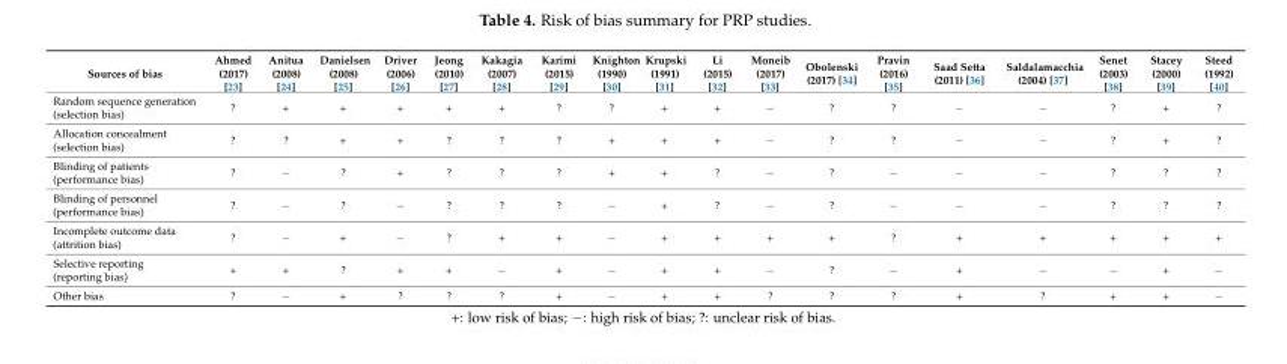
<table><thead><tr><td>Sources of bias</td><td>Ahmed (2017) [23]</td><td>Anitua (2008) [24]</td><td>Danielsen (2008) [25]</td><td>Driver (2006) [26]</td><td>Jeong (2010) [27]</td><td>Kakagia (2007) [28]</td><td>Karimi (2015) [29]</td><td>Knighton (1990) [30]</td><td>Krupski (1991) [31]</td><td>Li (2015) [32]</td><td>Moneib (2017) [33]</td><td>Obolenski (2017) [34]</td><td>Pravin (2016) [35]</td><td>Saad Setta (2011) [36]</td><td>Saldalamacchia (2004) [37]</td><td>Senet (2003) [38]</td><td>Stacey (2000) [39]</td><td>Steed (1992) [40]</td></tr></thead><tbody><tr><td>Random sequence generation (selection bias)</td><td>?</td><td>+</td><td>+</td><td>+</td><td>+</td><td>+</td><td>?</td><td>?</td><td>+</td><td>+</td><td>−</td><td>?</td><td>?</td><td>−</td><td>−</td><td>?</td><td>+</td><td>?</td></tr><tr><td>Allocation concealment (selection bias)</td><td>?</td><td>?</td><td>+</td><td>+</td><td>?</td><td>?</td><td>?</td><td>+</td><td>+</td><td>+</td><td>−</td><td>?</td><td>?</td><td>−</td><td>−</td><td>?</td><td>+</td><td>?</td></tr><tr><td>Blinding of patients (performance bias)</td><td>?</td><td>−</td><td>?</td><td>+</td><td>?</td><td>?</td><td>?</td><td>+</td><td>+</td><td>?</td><td>−</td><td>?</td><td>−</td><td>−</td><td>−</td><td>?</td><td>?</td><td>?</td></tr><tr><td>Blinding of personnel (performance bias)</td><td>?</td><td>−</td><td>?</td><td>−</td><td>?</td><td>?</td><td>?</td><td>−</td><td>+</td><td>?</td><td>−</td><td>?</td><td>−</td><td>−</td><td>−</td><td>?</td><td>?</td><td>?</td></tr><tr><td>Incomplete outcome data (attrition bias)</td><td>?</td><td>−</td><td>+</td><td>−</td><td>?</td><td>+</td><td>+</td><td>−</td><td>+</td><td>+</td><td>+</td><td>+</td><td>?</td><td>+</td><td>+</td><td>+</td><td>+</td><td>+</td></tr><tr><td>Selective reporting (reporting bias)</td><td>+</td><td>+</td><td>?</td><td>+</td><td>+</td><td>−</td><td>+</td><td>−</td><td>+</td><td>+</td><td>−</td><td>?</td><td>−</td><td>+</td><td>−</td><td>−</td><td>+</td><td>−</td></tr><tr><td>Other bias</td><td>?</td><td>−</td><td>+</td><td>?</td><td>?</td><td>?</td><td>+</td><td>−</td><td>+</td><td>+</td><td>?</td><td>?</td><td>?</td><td>+</td><td>?</td><td>+</td><td>+</td><td>−</td></tr></tbody></table>